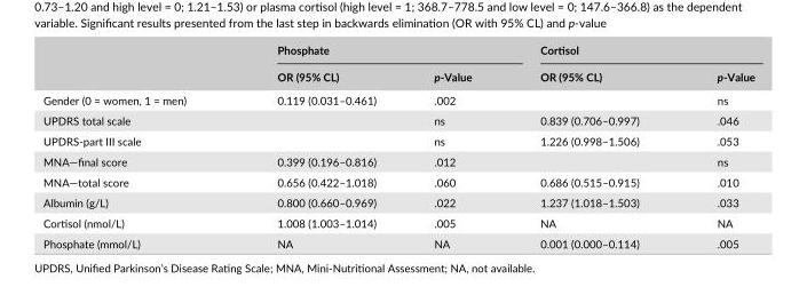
<table><thead><tr><td rowspan="2"></td><td colspan="2">Phosphate</td><td colspan="2">Cortisol</td></tr><tr><td>OR (95% CL)</td><td>p- Value</td><td>OR (95% CL)</td><td>p- Value</td></tr></thead><tbody><tr><td>Gender (0 = women, 1 = men)</td><td>0.119 (0.031–0.461)</td><td>.002</td><td></td><td>ns</td></tr><tr><td>UPDRS total scale</td><td></td><td>ns</td><td>0.839 (0.706–0.997)</td><td>.046</td></tr><tr><td>UPDRS- part III scale</td><td></td><td>ns</td><td>1.226 (0.998–1.506)</td><td>.053</td></tr><tr><td>MNA—final score</td><td>0.399 (0.196–0.816)</td><td>.012</td><td></td><td>ns</td></tr><tr><td>MNA—total score</td><td>0.656 (0.422–1.018)</td><td>.060</td><td>0.686 (0.515–0.915)</td><td>.010</td></tr><tr><td>Albumin (g/L)</td><td>0.800 (0.660–0.969)</td><td>.022</td><td>1.237 (1.018–1.503)</td><td>.033</td></tr><tr><td>Cortisol (nmol/L)</td><td>1.008 (1.003–1.014)</td><td>.005</td><td>NA</td><td>NA</td></tr><tr><td>Phosphate (mmol/L)</td><td>NA</td><td>NA</td><td>0.001 (0.000–0.114)</td><td>.005</td></tr></tbody></table>